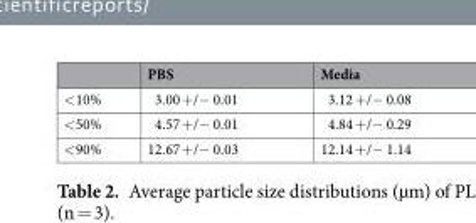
<table><thead><tr><td></td><td>PBS</td><td>Media</td></tr></thead><tbody><tr><td>&lt;10%</td><td>3.00 +/− 0.01</td><td>3.12 +/− 0.08</td></tr><tr><td>&lt;50%</td><td>4.57 +/− 0.01</td><td>4.84 +/− 0.29</td></tr><tr><td>&lt;90%</td><td>12.67 +/− 0.03</td><td>12.14 +/− 1.14</td></tr></tbody></table>